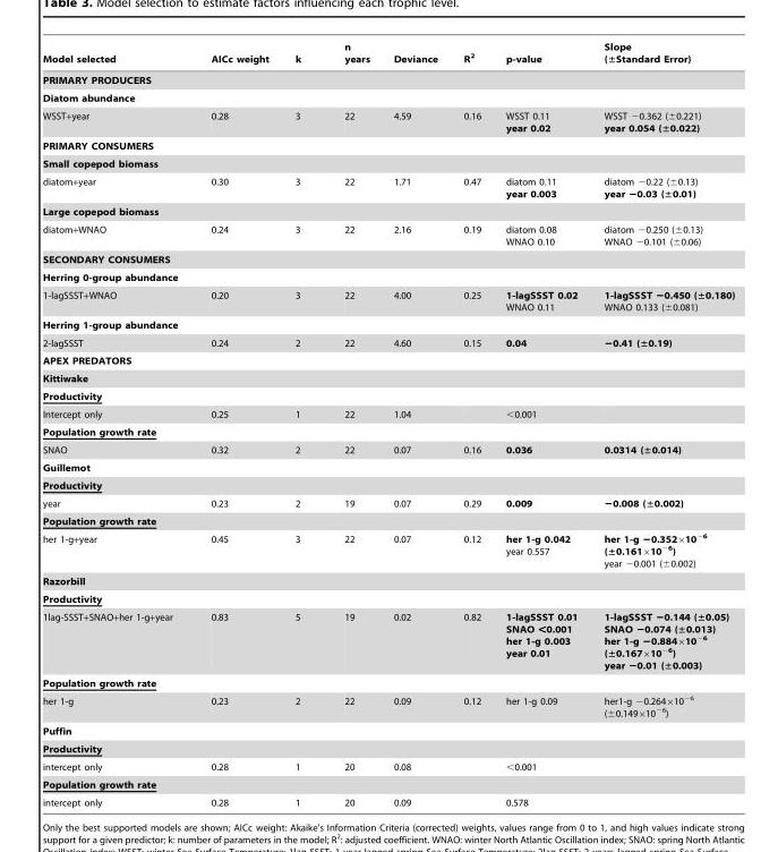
<table><thead><tr><td>Model selected</td><td>AICc weight</td><td>k</td><td>n years</td><td>Deviance</td><td>R<sup>2</sup></td><td>p-value</td><td>Slope (±Standard Error)</td></tr></thead><tbody><tr><td colspan="8">PRIMARY PRODUCERS</td></tr><tr><td colspan="8">Diatom abundance</td></tr><tr><td>WSST+year</td><td>0.28</td><td>3</td><td>22</td><td>4.59</td><td>0.16</td><td>WSST 0.11 year 0.02</td><td>WSST −0.362 (±0.221) year 0.054 (±0.022)</td></tr><tr><td colspan="8">PRIMARY CONSUMERS</td></tr><tr><td colspan="8">Small copepod biomass</td></tr><tr><td>diatom+year</td><td>0.30</td><td>3</td><td>22</td><td>1.71</td><td>0.47</td><td>diatom 0.11 year 0.003</td><td>diatom −0.22 (±0.13) year −0.03 (±0.01)</td></tr><tr><td colspan="8">Large copepod biomass</td></tr><tr><td>diatom+WNAO</td><td>0.24</td><td>3</td><td>22</td><td>2.16</td><td>0.19</td><td>diatom 0.08 WNAO 0.10</td><td>diatom −0.250 (±0.13) WNAO −0.101 (±0.06)</td></tr><tr><td colspan="8">SECONDARY CONSUMERS</td></tr><tr><td colspan="8">Herring 0-group abundance</td></tr><tr><td>1-lagSSST+WNAO</td><td>0.20</td><td>3</td><td>22</td><td>4.00</td><td>0.25</td><td>1-lagSSST 0.02 WNAO 0.11</td><td>1-lagSSST −0.450 (±0.180) WNAO 0.133 (±0.081)</td></tr><tr><td colspan="8">Herring 1-group abundance</td></tr><tr><td>2-lagSSST</td><td>0.24</td><td>2</td><td>22</td><td>4.60</td><td>0.15</td><td>0.04</td><td>−0.41 (±0.19)</td></tr><tr><td colspan="8">APEX PREDATORS</td></tr><tr><td colspan="8">Kittiwake</td></tr><tr><td colspan="8">Productivity</td></tr><tr><td>Intercept only</td><td>0.25</td><td>1</td><td>22</td><td>1.04</td><td></td><td>&lt;0.001</td><td></td></tr><tr><td colspan="8">Population growth rate</td></tr><tr><td>SNAO</td><td>0.32</td><td>2</td><td>22</td><td>0.07</td><td>0.16</td><td>0.036</td><td>0.0314 (±0.014)</td></tr><tr><td colspan="8">Guillemot</td></tr><tr><td colspan="8">Productivity</td></tr><tr><td>year</td><td>0.23</td><td>2</td><td>19</td><td>0.07</td><td>0.29</td><td>0.009</td><td>−0.008 (±0.002)</td></tr><tr><td colspan="8">Population growth rate</td></tr><tr><td>her 1-g+year</td><td>0.45</td><td>3</td><td>22</td><td>0.07</td><td>0.12</td><td>her 1-g 0.042 year 0.557</td><td>her 1-g −0.352×10<sup>−6</sup> (±0.161×10<sup>−6</sup>) year −0.001 (±0.002)</td></tr><tr><td colspan="8">Razorbill</td></tr><tr><td colspan="8">Productivity</td></tr><tr><td>1lag-SSST+SNAO+her 1-g+year</td><td>0.83</td><td>5</td><td>19</td><td>0.02</td><td>0.82</td><td>1-lagSSST 0.01 SNAO &lt;0.001 her 1-g 0.003 year 0.01</td><td>1-lagSSST −0.144 (±0.05) SNAO −0.074 (±0.013) her 1-g −0.884×10<sup>−6</sup> (±0.167×10<sup>−6</sup>) year −0.01 (±0.003)</td></tr><tr><td colspan="8">Population growth rate</td></tr><tr><td>her 1-g</td><td>0.23</td><td>2</td><td>22</td><td>0.09</td><td>0.12</td><td>her 1-g 0.09</td><td>her1-g −0.264×10<sup>−6</sup> (±0.149×10<sup>−6</sup>)</td></tr><tr><td colspan="8">Puffin</td></tr><tr><td colspan="8">Productivity</td></tr><tr><td>intercept only</td><td>0.28</td><td>1</td><td>20</td><td>0.08</td><td></td><td>&lt;0.001</td><td></td></tr><tr><td colspan="8">Population growth rate</td></tr><tr><td>intercept only</td><td>0.28</td><td>1</td><td>20</td><td>0.09</td><td></td><td>0.578</td><td></td></tr></tbody></table>